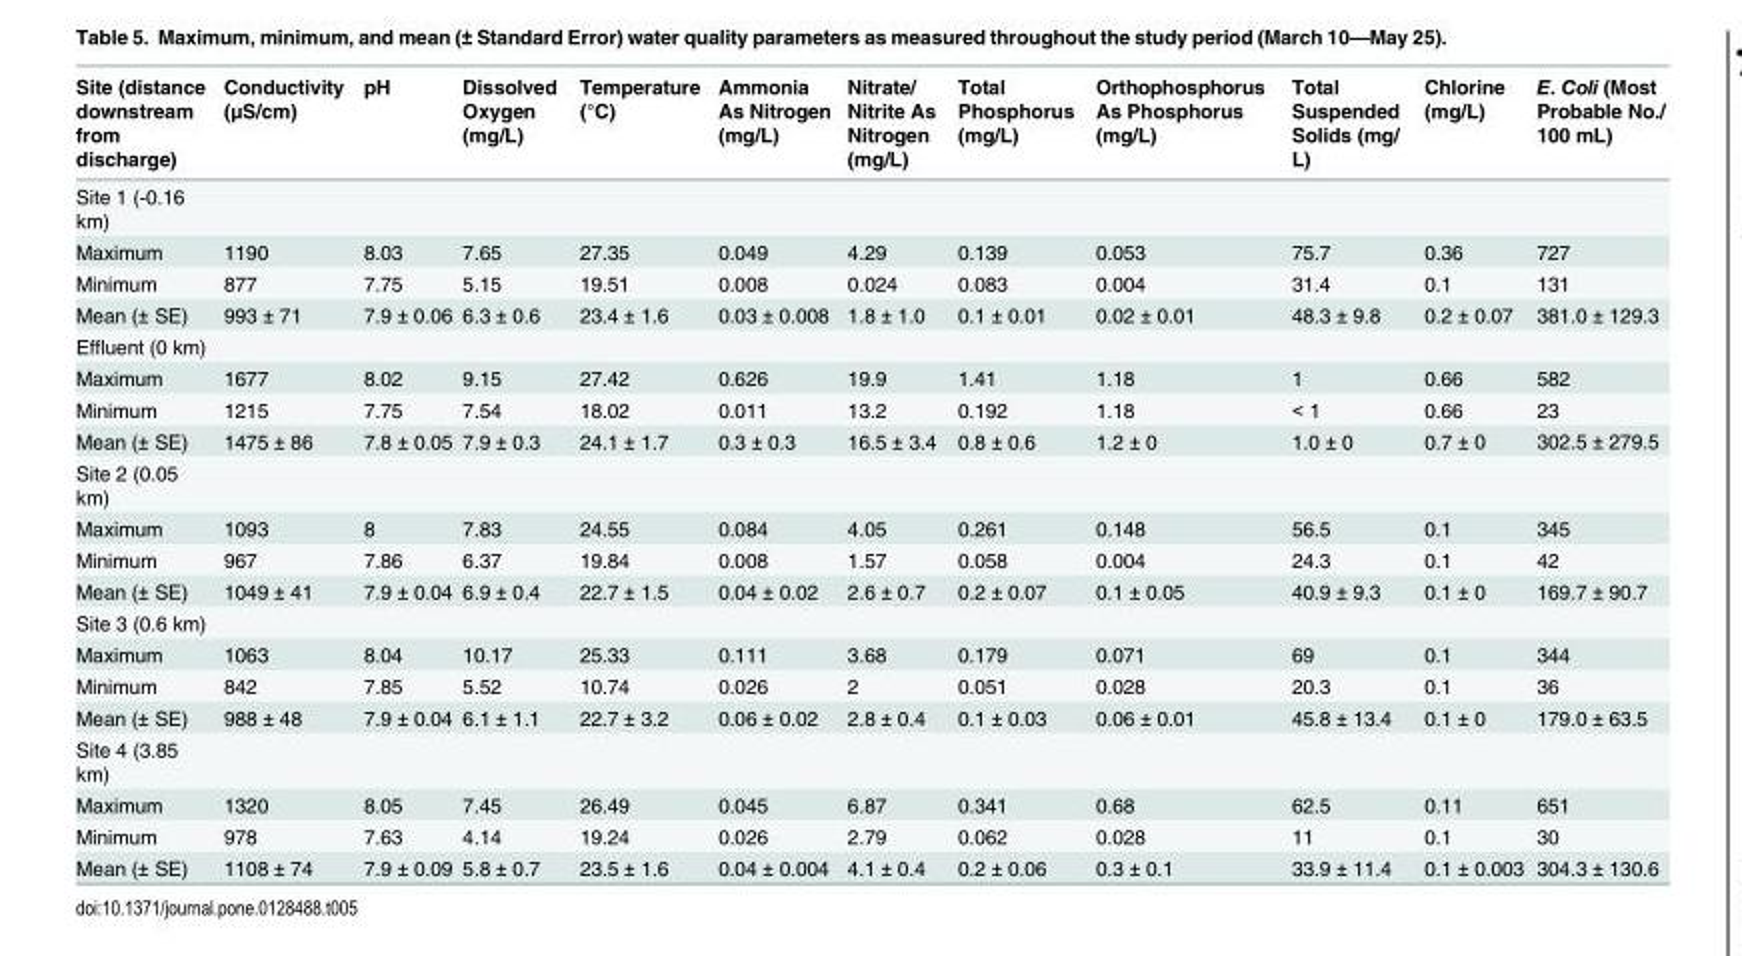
<table><thead><tr><td>Site (distance downstream from discharge)</td><td>Conductivity (μS/cm)</td><td>pH</td><td>Dissolved Oxygen (mg/L)</td><td>Temperature (°C)</td><td>Ammonia As Nitrogen (mg/L)</td><td>Nitrate/ Nitrite As Nitrogen (mg/L)</td><td>Total Phosphorus (mg/L)</td><td>Orthophosphorus As Phosphorus (mg/L)</td><td>Total Suspended Solids (mg/ L)</td><td>Chlorine (mg/L)</td><td>E. Coli (Most Probable No./ 100 mL)</td></tr></thead><tbody><tr><td colspan="12">Site 1 (-0.16 km)</td></tr><tr><td>Maximum</td><td>1190</td><td>8.03</td><td>7.65</td><td>27.35</td><td>0.049</td><td>4.29</td><td>0.139</td><td>0.053</td><td>75.7</td><td>0.36</td><td>727</td></tr><tr><td>Minimum</td><td>877</td><td>7.75</td><td>5.15</td><td>19.51</td><td>0.008</td><td>0.024</td><td>0.083</td><td>0.004</td><td>31.4</td><td>0.1</td><td>131</td></tr><tr><td>Mean (± SE)</td><td>993 ± 71</td><td>7.9 ± 0.06</td><td>6.3 ± 0.6</td><td>23.4 ± 1.6</td><td>0.03 ± 0.008</td><td>1.8 ± 1.0</td><td>0.1 ± 0.01</td><td>0.02 ± 0.01</td><td>48.3 ± 9.8</td><td>0.2 ± 0.07</td><td>381.0 ± 129.3</td></tr><tr><td colspan="12">Effluent (0 km)</td></tr><tr><td>Maximum</td><td>1677</td><td>8.02</td><td>9.15</td><td>27.42</td><td>0.626</td><td>19.9</td><td>1.41</td><td>1.18</td><td>1</td><td>0.66</td><td>582</td></tr><tr><td>Minimum</td><td>1215</td><td>7.75</td><td>7.54</td><td>18.02</td><td>0.011</td><td>13.2</td><td>0.192</td><td>1.18</td><td>&lt; 1</td><td>0.66</td><td>23</td></tr><tr><td>Mean (± SE)</td><td>1475 ± 86</td><td>7.8 ± 0.05</td><td>7.9 ± 0.3</td><td>24.1 ± 1.7</td><td>0.3 ± 0.3</td><td>16.5 ± 3.4</td><td>0.8 ± 0.6</td><td>1.2 ± 0</td><td>1.0 ± 0</td><td>0.7 ± 0</td><td>302.5 ± 279.5</td></tr><tr><td colspan="12">Site 2 (0.05 km)</td></tr><tr><td>Maximum</td><td>1093</td><td>8</td><td>7.83</td><td>24.55</td><td>0.084</td><td>4.05</td><td>0.261</td><td>0.148</td><td>56.5</td><td>0.1</td><td>345</td></tr><tr><td>Minimum</td><td>967</td><td>7.86</td><td>6.37</td><td>19.84</td><td>0.008</td><td>1.57</td><td>0.058</td><td>0.004</td><td>24.3</td><td>0.1</td><td>42</td></tr><tr><td>Mean (± SE)</td><td>1049 ± 41</td><td>7.9 ± 0.04</td><td>6.9 ± 0.4</td><td>22.7 ± 1.5</td><td>0.04 ± 0.02</td><td>2.6 ± 0.7</td><td>0.2 ± 0.07</td><td>0.1 ± 0.05</td><td>40.9 ± 9.3</td><td>0.1 ± 0</td><td>169.7 ± 90.7</td></tr><tr><td colspan="12">Site 3 (0.6 km)</td></tr><tr><td>Maximum</td><td>1063</td><td>8.04</td><td>10.17</td><td>25.33</td><td>0.111</td><td>3.68</td><td>0.179</td><td>0.071</td><td>69</td><td>0.1</td><td>344</td></tr><tr><td>Minimum</td><td>842</td><td>7.85</td><td>5.52</td><td>10.74</td><td>0.026</td><td>2</td><td>0.051</td><td>0.028</td><td>20.3</td><td>0.1</td><td>36</td></tr><tr><td>Mean (± SE)</td><td>988 ± 48</td><td>7.9 ± 0.04</td><td>6.1 ± 1.1</td><td>22.7 ± 3.2</td><td>0.06 ± 0.02</td><td>2.8 ± 0.4</td><td>0.1 ± 0.03</td><td>0.06 ± 0.01</td><td>45.8 ± 13.4</td><td>0.1 ± 0</td><td>179.0 ± 63.5</td></tr><tr><td colspan="12">Site 4 (3.85 km)</td></tr><tr><td>Maximum</td><td>1320</td><td>8.05</td><td>7.45</td><td>26.49</td><td>0.045</td><td>6.87</td><td>0.341</td><td>0.68</td><td>62.5</td><td>0.11</td><td>651</td></tr><tr><td>Minimum</td><td>978</td><td>7.63</td><td>4.14</td><td>19.24</td><td>0.026</td><td>2.79</td><td>0.062</td><td>0.028</td><td>11</td><td>0.1</td><td>30</td></tr><tr><td>Mean (± SE)</td><td>1108 ± 74</td><td>7.9 ± 0.09</td><td>5.8 ± 0.7</td><td>23.5 ± 1.6</td><td>0.04 ± 0.004</td><td>4.1 ± 0.4</td><td>0.2 ± 0.06</td><td>0.3 ± 0.1</td><td>33.9 ± 11.4</td><td>0.1 ± 0.003</td><td>304.3 ± 130.6</td></tr></tbody></table>